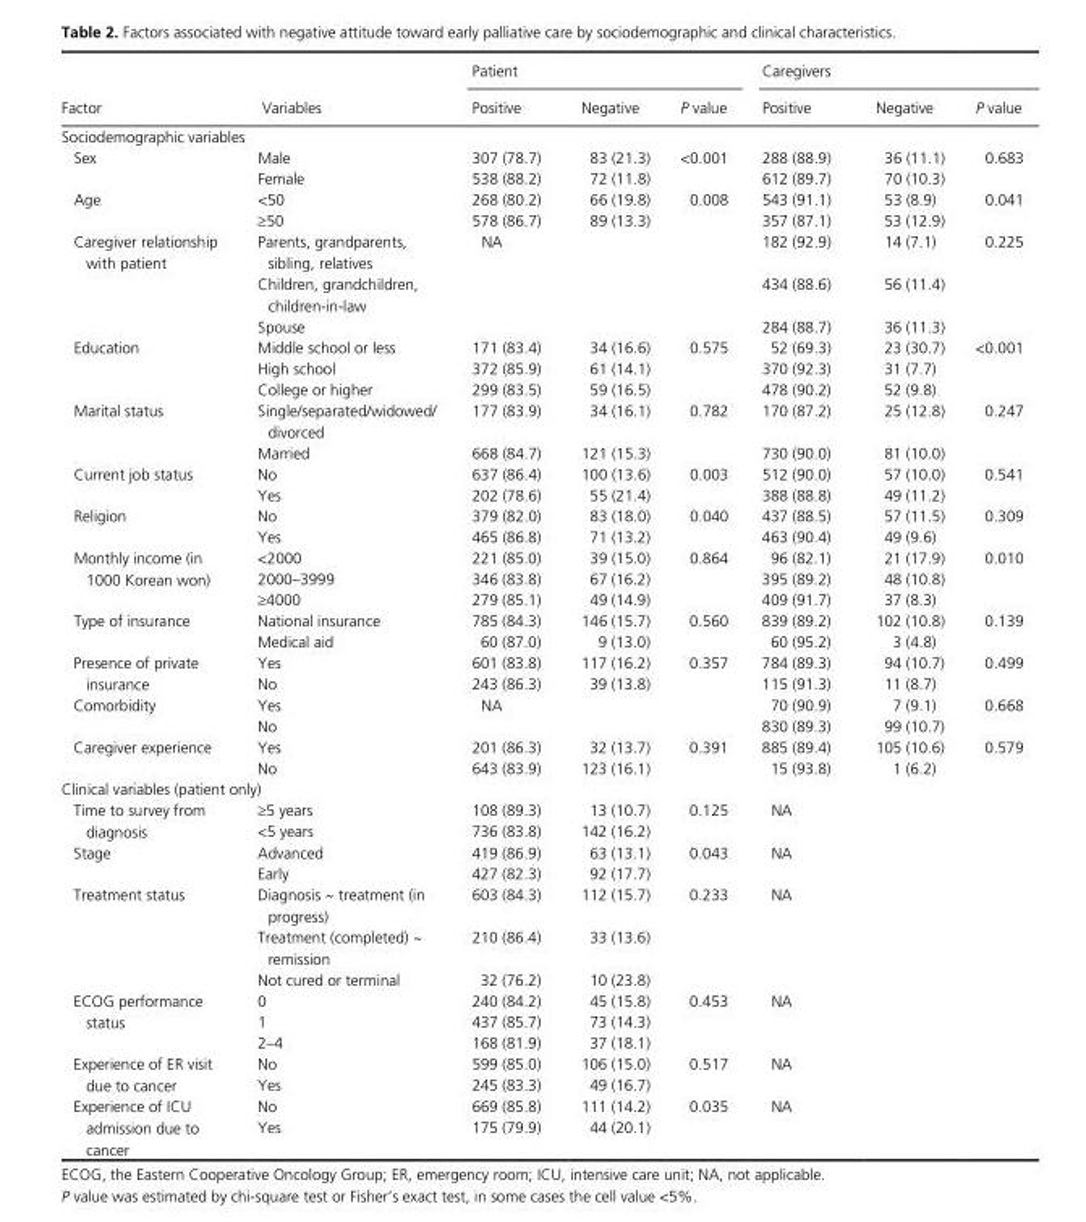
<table><thead><tr><td rowspan="2">Factor</td><td rowspan="2">Variables</td><td colspan="3">Patient</td><td colspan="3">Caregivers</td></tr><tr><td>Positive</td><td>Negative</td><td>P value</td><td>Positive</td><td>Negative</td><td>P value</td></tr></thead><tbody><tr><td colspan="8">Sociodemographic variables</td></tr><tr><td rowspan="2">Sex</td><td>Male</td><td>307 (78.7)</td><td>83 (21.3)</td><td>&lt;0.001</td><td>288 (88.9)</td><td>36 (11.1)</td><td>0.683</td></tr><tr><td>Female</td><td>538 (88.2)</td><td>72 (11.8)</td><td></td><td>612 (89.7)</td><td>70 (10.3)</td><td></td></tr><tr><td rowspan="2">Age</td><td>&lt;50</td><td>268 (80.2)</td><td>66 (19.8)</td><td>0.008</td><td>543 (91.1)</td><td>53 (8.9)</td><td>0.041</td></tr><tr><td>≥50</td><td>578 (86.7)</td><td>89 (13.3)</td><td></td><td>357 (87.1)</td><td>53 (12.9)</td><td></td></tr><tr><td rowspan="3">Caregiver relationship with patient</td><td>Parents, grandparents, sibling, relatives</td><td>NA</td><td></td><td></td><td>182 (92.9)</td><td>14 (7.1)</td><td>0.225</td></tr><tr><td>Children, grandchildren, children- in- law</td><td></td><td></td><td></td><td>434 (88.6)</td><td>56 (11.4)</td><td></td></tr><tr><td>Spouse</td><td></td><td></td><td></td><td>284 (88.7)</td><td>36 (11.3)</td><td></td></tr><tr><td rowspan="3">Education</td><td>Middle school or less</td><td>171 (83.4)</td><td>34 (16.6)</td><td>0.575</td><td>52 (69.3)</td><td>23 (30.7)</td><td>&lt;0.001</td></tr><tr><td>High school</td><td>372 (85.9)</td><td>61 (14.1)</td><td></td><td>370 (92.3)</td><td>31 (7.7)</td><td></td></tr><tr><td>College or higher</td><td>299 (83.5)</td><td>59 (16.5)</td><td></td><td>478 (90.2)</td><td>52 (9.8)</td><td></td></tr><tr><td rowspan="2">Marital status</td><td>Single/separated/widowed/ divorced</td><td>177 (83.9)</td><td>34 (16.1)</td><td>0.782</td><td>170 (87.2)</td><td>25 (12.8)</td><td>0.247</td></tr><tr><td>Married</td><td>668 (84.7)</td><td>121 (15.3)</td><td></td><td>730 (90.0)</td><td>81 (10.0)</td><td></td></tr><tr><td rowspan="2">Current job status</td><td>No</td><td>637 (86.4)</td><td>100 (13.6)</td><td>0.003</td><td>512 (90.0)</td><td>57 (10.0)</td><td>0.541</td></tr><tr><td>Yes</td><td>202 (78.6)</td><td>55 (21.4)</td><td></td><td>388 (88.8)</td><td>49 (11.2)</td><td></td></tr><tr><td rowspan="2">Religion</td><td>No</td><td>379 (82.0)</td><td>83 (18.0)</td><td>0.040</td><td>437 (88.5)</td><td>57 (11.5)</td><td>0.309</td></tr><tr><td>Yes</td><td>465 (86.8)</td><td>71 (13.2)</td><td></td><td>463 (90.4)</td><td>49 (9.6)</td><td></td></tr><tr><td rowspan="3">Monthly income (in 1000 Korean won)</td><td>&lt;2000</td><td>221 (85.0)</td><td>39 (15.0)</td><td>0.864</td><td>96 (82.1)</td><td>21 (17.9)</td><td>0.010</td></tr><tr><td>2000–3999</td><td>346 (83.8)</td><td>67 (16.2)</td><td></td><td>395 (89.2)</td><td>48 (10.8)</td><td></td></tr><tr><td>≥4000</td><td>279 (85.1)</td><td>49 (14.9)</td><td></td><td>409 (91.7)</td><td>37 (8.3)</td><td></td></tr><tr><td rowspan="2">Type of insurance</td><td>National insurance</td><td>785 (84.3)</td><td>146 (15.7)</td><td>0.560</td><td>839 (89.2)</td><td>102 (10.8)</td><td>0.139</td></tr><tr><td>Medical aid</td><td>60 (87.0)</td><td>9 (13.0)</td><td></td><td>60 (95.2)</td><td>3 (4.8)</td><td></td></tr><tr><td rowspan="2">Presence of private insurance</td><td>Yes</td><td>601 (83.8)</td><td>117 (16.2)</td><td>0.357</td><td>784 (89.3)</td><td>94 (10.7)</td><td>0.499</td></tr><tr><td>No</td><td>243 (86.3)</td><td>39 (13.8)</td><td></td><td>115 (91.3)</td><td>11 (8.7)</td><td></td></tr><tr><td rowspan="2">Comorbidity</td><td>Yes</td><td>NA</td><td></td><td></td><td>70 (90.9)</td><td>7 (9.1)</td><td>0.668</td></tr><tr><td>No</td><td></td><td></td><td></td><td>830 (89.3)</td><td>99 (10.7)</td><td></td></tr><tr><td rowspan="2">Caregiver experience</td><td>Yes</td><td>201 (86.3)</td><td>32 (13.7)</td><td>0.391</td><td>885 (89.4)</td><td>105 (10.6)</td><td>0.579</td></tr><tr><td>No</td><td>643 (83.9)</td><td>123 (16.1)</td><td></td><td>15 (93.8)</td><td>1 (6.2)</td><td></td></tr><tr><td colspan="8">Clinical variables (patient only)</td></tr><tr><td rowspan="2">Time to survey from diagnosis</td><td>≥5 years</td><td>108 (89.3)</td><td>13 (10.7)</td><td>0.125</td><td>NA</td><td></td><td></td></tr><tr><td>&lt;5 years</td><td>736 (83.8)</td><td>142 (16.2)</td><td></td><td></td><td></td><td></td></tr><tr><td rowspan="2">Stage</td><td>Advanced</td><td>419 (86.9)</td><td>63 (13.1)</td><td>0.043</td><td>NA</td><td></td><td></td></tr><tr><td>Early</td><td>427 (82.3)</td><td>92 (17.7)</td><td></td><td></td><td></td><td></td></tr><tr><td rowspan="3">Treatment status</td><td>Diagnosis ~ treatment (in progress)</td><td>603 (84.3)</td><td>112 (15.7)</td><td>0.233</td><td>NA</td><td></td><td></td></tr><tr><td>Treatment (completed) ~ remission</td><td>210 (86.4)</td><td>33 (13.6)</td><td></td><td></td><td></td><td></td></tr><tr><td>Not cured or terminal</td><td>32 (76.2)</td><td>10 (23.8)</td><td></td><td></td><td></td><td></td></tr><tr><td rowspan="3">ECOG performance status</td><td>0</td><td>240 (84.2)</td><td>45 (15.8)</td><td>0.453</td><td>NA</td><td></td><td></td></tr><tr><td>1</td><td>437 (85.7)</td><td>73 (14.3)</td><td></td><td></td><td></td><td></td></tr><tr><td>2–4</td><td>168 (81.9)</td><td>37 (18.1)</td><td></td><td></td><td></td><td></td></tr><tr><td rowspan="2">Experience of ER visit due to cancer</td><td>No</td><td>599 (85.0)</td><td>106 (15.0)</td><td>0.517</td><td>NA</td><td></td><td></td></tr><tr><td>Yes</td><td>245 (83.3)</td><td>49 (16.7)</td><td></td><td></td><td></td><td></td></tr><tr><td rowspan="2">Experience of ICU admission due to cancer</td><td>No</td><td>669 (85.8)</td><td>111 (14.2)</td><td>0.035</td><td>NA</td><td></td><td></td></tr><tr><td>Yes</td><td>175 (79.9)</td><td>44 (20.1)</td><td></td><td></td><td></td><td></td></tr></tbody></table>